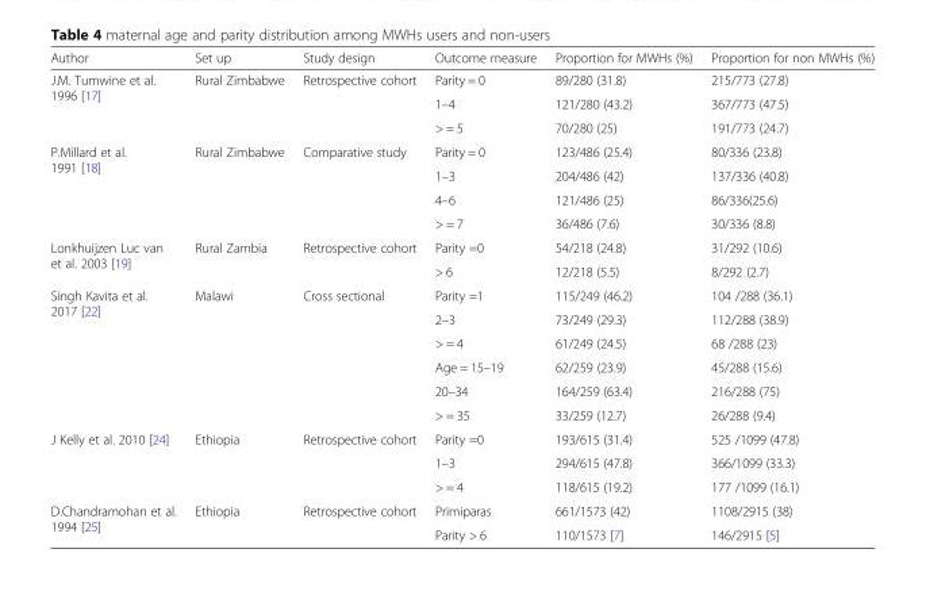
<table><thead><tr><td>Author</td><td>Set up</td><td>Study design</td><td>Outcome measure</td><td>Proportion for MWHs (%)</td><td>Proportion for non MWHs (%)</td></tr></thead><tbody><tr><td rowspan="3">J.M. Tumwine et al. 1996 [17]</td><td rowspan="3">Rural Zimbabwe</td><td rowspan="3">Retrospective cohort</td><td>Parity = 0</td><td>89/280 (31.8)</td><td>215/773 (27.8)</td></tr><tr><td>1–4</td><td>121/280 (43.2)</td><td>367/773 (47.5)</td></tr><tr><td>&gt; = 5</td><td>70/280 (25)</td><td>191/773 (24.7)</td></tr><tr><td rowspan="4">P.Millard et al. 1991 [18]</td><td rowspan="4">Rural Zimbabwe</td><td rowspan="4">Comparative study</td><td>Parity = 0</td><td>123/486 (25.4)</td><td>80/336 (23.8)</td></tr><tr><td>1–3</td><td>204/486 (42)</td><td>137/336 (40.8)</td></tr><tr><td>4–6</td><td>121/486 (25)</td><td>86/336(25.6)</td></tr><tr><td>&gt; = 7</td><td>36/486 (7.6)</td><td>30/336 (8.8)</td></tr><tr><td rowspan="2">Lonkhuijzen Luc van et al. 2003 [19]</td><td rowspan="2">Rural Zambia</td><td rowspan="2">Retrospective cohort</td><td>Parity =0</td><td>54/218 (24.8)</td><td>31/292 (10.6)</td></tr><tr><td>&gt; 6</td><td>12/218 (5.5)</td><td>8/292 (2.7)</td></tr><tr><td rowspan="6">Singh Kavita et al. 2017 [22]</td><td rowspan="6">Malawi</td><td rowspan="6">Cross sectional</td><td>Parity =1</td><td>115/249 (46.2)</td><td>104 /288 (36.1)</td></tr><tr><td>2–3</td><td>73/249 (29.3)</td><td>112/288 (38.9)</td></tr><tr><td>&gt; = 4</td><td>61/249 (24.5)</td><td>68 /288 (23)</td></tr><tr><td>Age = 15–19</td><td>62/259 (23.9)</td><td>45/288 (15.6)</td></tr><tr><td>20–34</td><td>164/259 (63.4)</td><td>216/288 (75)</td></tr><tr><td>&gt; = 35</td><td>33/259 (12.7)</td><td>26/288 (9.4)</td></tr><tr><td rowspan="3">J Kelly et al. 2010 [24]</td><td rowspan="3">Ethiopia</td><td rowspan="3">Retrospective cohort</td><td>Parity =0</td><td>193/615 (31.4)</td><td>525 /1099 (47.8)</td></tr><tr><td>1–3</td><td>294/615 (47.8)</td><td>366/1099 (33.3)</td></tr><tr><td>&gt; = 4</td><td>118/615 (19.2)</td><td>177 /1099 (16.1)</td></tr><tr><td rowspan="2">D.Chandramohan et al. 1994 [25]</td><td rowspan="2">Ethiopia</td><td rowspan="2">Retrospective cohort</td><td>Primiparas</td><td>661/1573 (42)</td><td>1108/2915 (38)</td></tr><tr><td>Parity &gt; 6</td><td>110/1573 [7]</td><td>146/2915 [5]</td></tr></tbody></table>